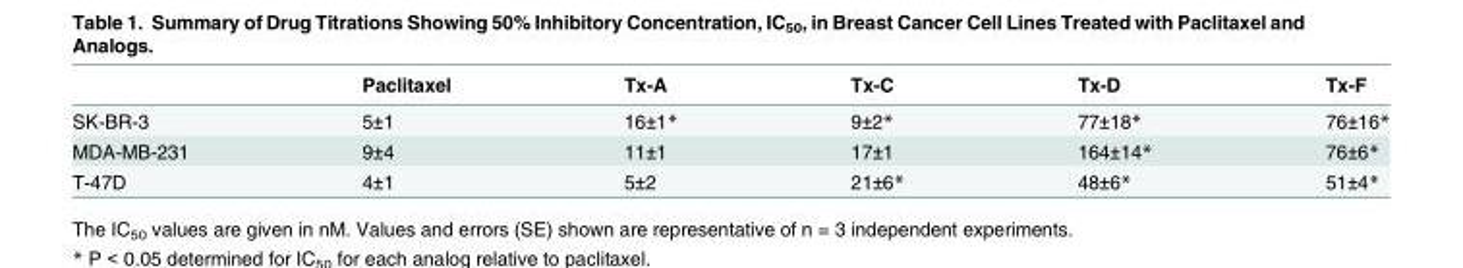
<table><thead><tr><td></td><td>Paclitaxel</td><td>Tx-A</td><td>Tx-C</td><td>Tx-D</td><td>Tx-F</td></tr></thead><tbody><tr><td>SK-BR-3</td><td>5±1</td><td>16±1*</td><td>9±2*</td><td>77±18*</td><td>76±16*</td></tr><tr><td>MDA-MB-231</td><td>9±4</td><td>11±1</td><td>17±1</td><td>164±14*</td><td>76±6*</td></tr><tr><td>T-47D</td><td>4±1</td><td>5±2</td><td>21±6*</td><td>48±6*</td><td>51±4*</td></tr></tbody></table>